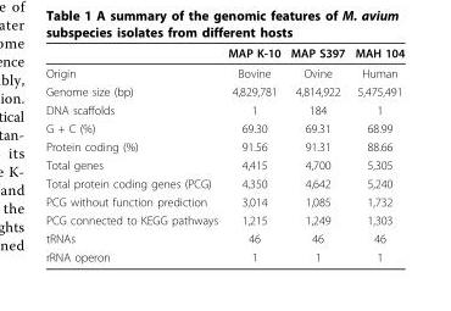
<table><thead><tr><td></td><td>MAP K-10</td><td>MAP S397</td><td>MAH 104</td></tr></thead><tbody><tr><td>Origin</td><td>Bovine</td><td>Ovine</td><td>Human</td></tr><tr><td>Genome size (bp)</td><td>4,829,781</td><td>4,814,922</td><td>5,475,491</td></tr><tr><td>DNA scaffolds</td><td>1</td><td>184</td><td>1</td></tr><tr><td>G + C (%)</td><td>69.30</td><td>69.31</td><td>68.99</td></tr><tr><td>Protein coding (%)</td><td>91.56</td><td>91.31</td><td>88.66</td></tr><tr><td>Total genes</td><td>4,415</td><td>4,700</td><td>5,305</td></tr><tr><td>Total protein coding genes (PCG)</td><td>4,350</td><td>4,642</td><td>5,240</td></tr><tr><td>PCG without function prediction</td><td>3,014</td><td>1,085</td><td>1,732</td></tr><tr><td>PCG connected to KEGG pathways</td><td>1,215</td><td>1,249</td><td>1,303</td></tr><tr><td>tRNAs</td><td>46</td><td>46</td><td>46</td></tr><tr><td>rRNA operon</td><td>1</td><td>1</td><td>1</td></tr></tbody></table>